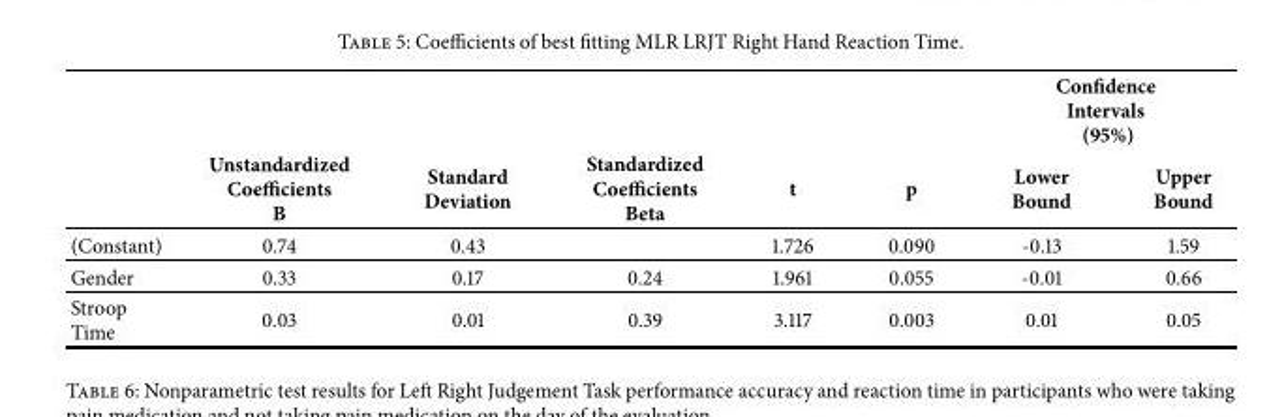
<table><thead><tr><td rowspan="2"></td><td rowspan="2">Unstandardized Coefficients B</td><td rowspan="2">Standard Deviation</td><td rowspan="2">Standardized Coefficients Beta</td><td rowspan="2">t</td><td rowspan="2">p</td><td colspan="2">Confidence Intervals (95%)</td></tr><tr><td>Lower Bound</td><td>Upper Bound</td></tr></thead><tbody><tr><td>(Constant)</td><td>0.74</td><td>0.43</td><td></td><td>1.726</td><td>0.090</td><td>-0.13</td><td>1.59</td></tr><tr><td>Gender</td><td>0.33</td><td>0.17</td><td>0.24</td><td>1.961</td><td>0.055</td><td>-0.01</td><td>0.66</td></tr><tr><td>Stroop Time</td><td>0.03</td><td>0.01</td><td>0.39</td><td>3.117</td><td>0.003</td><td>0.01</td><td>0.05</td></tr></tbody></table>